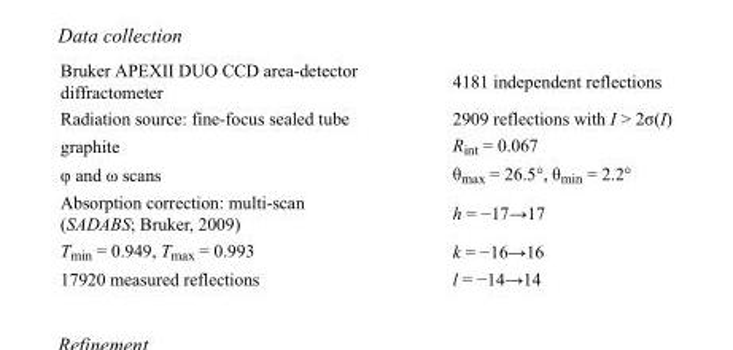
<table><tbody><tr><td>Bruker APEXII DUO CCD area-detector diffractometer</td><td>4181 independent reflections</td></tr><tr><td>Radiation source: fine-focus sealed tube</td><td>2909 reflections with I &gt; 2σ(I)</td></tr><tr><td>graphite</td><td>R<sub>int</sub> = 0.067</td></tr><tr><td>φ and ω scans</td><td>θ<sub>max</sub> = 26.5°, θ<sub>min</sub> = 2.2°</td></tr><tr><td>Absorption correction: multi-scan (SADABS; Bruker, 2009)</td><td>h = −17→17</td></tr><tr><td>T<sub>min</sub> = 0.949, T<sub>max</sub> = 0.993</td><td>k = −16→16</td></tr><tr><td>17920 measured reflections</td><td>l = −14→14</td></tr></tbody></table>